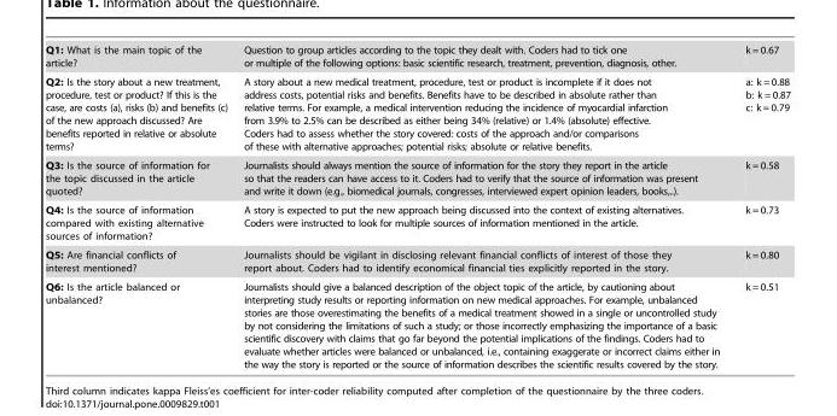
<table><tbody><tr><td>Q1: What is the main topic of the article?</td><td>Question to group articles according to the topic they dealt with. Coders had to tick one or multiple of the following options: basic scientific research, treatment, prevention, diagnosis, other.</td><td>k = 0.67</td></tr><tr><td>Q2: Is the story about a new treatment, procedure, test or product? If this is the case, are costs (a), risks (b) and benefits (c) of the new approach discussed? Are benefits reported in relative or absolute terms?</td><td>A story about a new medical treatment, procedure, test or product is incomplete if it does not address costs, potential risks and benefits. Benefits have to be described in absolute rather than relative terms. For example, a medical intervention reducing the incidence of myocardial infarction from 3.9% to 2.5% can be described as either being 34% (relative) or 1.4% (absolute) effective. Coders had to assess whether the story covered: costs of the approach and/or comparisons of these with alternative approaches; potential risks; absolute or relative benefits.</td><td>a: k = 0.88 b: k = 0.87 c: k = 0.79</td></tr><tr><td>Q3: Is the source of information for the topic discussed in the article quoted?</td><td>Journalists should always mention the source of information for the story they report in the article so that the readers can have access to it. Coders had to verify that the source of information was present and write it down (e.g., biomedical journals, congresses, interviewed expert opinion leaders, books,..).</td><td>k = 0.58</td></tr><tr><td>Q4: Is the source of information compared with existing alternative sources of information?</td><td>A story is expected to put the new approach being discussed into the context of existing alternatives. Coders were instructed to look for multiple sources of information mentioned in the article.</td><td>k = 0.73</td></tr><tr><td>Q5: Are financial conflicts of interest mentioned?</td><td>Journalists should be vigilant in disclosing relevant financial conflicts of interest of those they report about. Coders had to identify economical financial ties explicitly reported in the story.</td><td>k = 0.80</td></tr><tr><td>Q6: Is the article balanced or unbalanced?</td><td>Journalists should give a balanced description of the object topic of the article, by cautioning about interpreting study results or reporting information on new medical approaches. For example, unbalanced stories are those overestimating the benefits of a medical treatment showed in a single or uncontrolled study by not considering the limitations of such a study; or those incorrectly emphasizing the importance of a basic scientific discovery with claims that go far beyond the potential implications of the findings. Coders had to evaluate whether articles were balanced or unbalanced, i.e., containing exaggerate or incorrect claims either in the way the story is reported or the source of information describes the scientific results covered by the story.</td><td>k = 0.51</td></tr></tbody></table>